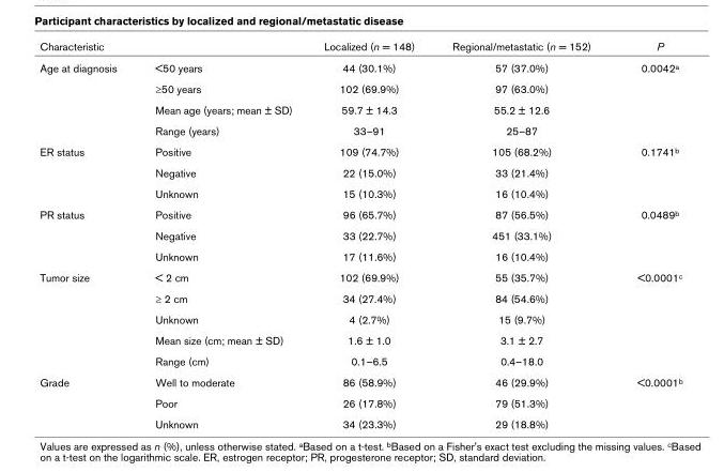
<table><thead><tr><td colspan="2">Characteristic</td><td rowspan="2">Localized (n = 148) 44 (30.1%)</td><td rowspan="2">Regional/metastatic (n = 152) 57 (37.0%)</td><td rowspan="2">P 0.0042a</td></tr><tr><td>Age at diagnosis</td><td>&lt;50 years</td></tr></thead><tbody><tr><td></td><td>≥50 years</td><td>102 (69.9%)</td><td>97 (63.0%)</td><td></td></tr><tr><td></td><td>Mean age (years; mean ± SD)</td><td>59.7 ± 14.3</td><td>55.2 ± 12.6</td><td></td></tr><tr><td></td><td>Range (years)</td><td>33–91</td><td>25–87</td><td></td></tr><tr><td rowspan="3">ER status</td><td>Positive</td><td>109 (74.7%)</td><td>105 (68.2%)</td><td>0.1741b</td></tr><tr><td>Negative</td><td>22 (15.0%)</td><td>33 (21.4%)</td><td></td></tr><tr><td>Unknown</td><td>15 (10.3%)</td><td>16 (10.4%)</td><td></td></tr><tr><td rowspan="3">PR status</td><td>Positive</td><td>96 (65.7%)</td><td>87 (56.5%)</td><td>0.0489b</td></tr><tr><td>Negative</td><td>33 (22.7%)</td><td>451 (33.1%)</td><td></td></tr><tr><td>Unknown</td><td>17 (11.6%)</td><td>16 (10.4%)</td><td></td></tr><tr><td rowspan="5">Tumor size</td><td>&lt; 2 cm</td><td>102 (69.9%)</td><td>55 (35.7%)</td><td>&lt;0.0001c</td></tr><tr><td>≥ 2 cm</td><td>34 (27.4%)</td><td>84 (54.6%)</td><td></td></tr><tr><td>Unknown</td><td>4 (2.7%)</td><td>15 (9.7%)</td><td></td></tr><tr><td>Mean size (cm; mean ± SD)</td><td>1.6 ± 1.0</td><td>3.1 ± 2.7</td><td></td></tr><tr><td>Range (cm)</td><td>0.1–6.5</td><td>0.4–18.0</td><td></td></tr><tr><td rowspan="3">Grade</td><td>Well to moderate</td><td>86 (58.9%)</td><td>46 (29.9%)</td><td>&lt;0.0001b</td></tr><tr><td>Poor</td><td>26 (17.8%)</td><td>79 (51.3%)</td><td></td></tr><tr><td>Unknown</td><td>34 (23.3%)</td><td>29 (18.8%)</td><td></td></tr></tbody></table>